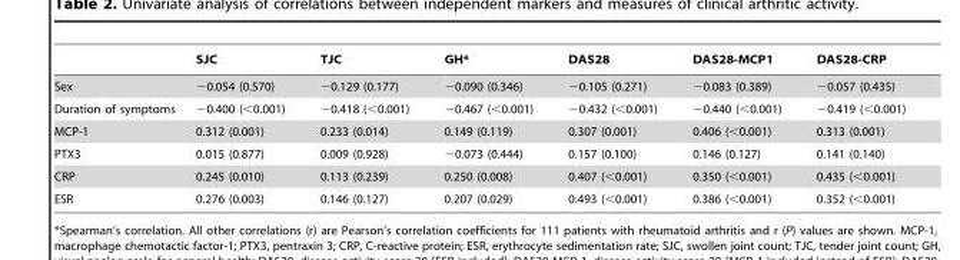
<table><thead><tr><td></td><td>SJC</td><td>TJC</td><td>GH*</td><td>DAS28</td><td>DAS28-MCP1</td><td>DAS28-CRP</td></tr></thead><tbody><tr><td>Sex</td><td>−0.054 (0.570)</td><td>−0.129 (0.177)</td><td>−0.090 (0.346)</td><td>−0.105 (0.271)</td><td>−0.083 (0.389)</td><td>−0.057 (0.435)</td></tr><tr><td>Duration of symptoms</td><td>−0.400 (&lt;0.001)</td><td>−0.418 (&lt;0.001)</td><td>−0.467 (&lt;0.001)</td><td>−0.432 (&lt;0.001)</td><td>−0.440 (&lt;0.001)</td><td>−0.419 (&lt;0.001)</td></tr><tr><td>MCP-1</td><td>0.312 (0.001)</td><td>0.233 (0.014)</td><td>0.149 (0.119)</td><td>0.307 (0.001)</td><td>0.406 (&lt;0.001)</td><td>0.313 (0.001)</td></tr><tr><td>PTX3</td><td>0.015 (0.877)</td><td>0.009 (0.928)</td><td>−0.073 (0.444)</td><td>0.157 (0.100)</td><td>0.146 (0.127)</td><td>0.141 (0.140)</td></tr><tr><td>CRP</td><td>0.245 (0.010)</td><td>0.113 (0.239)</td><td>0.250 (0.008)</td><td>0.407 (&lt;0.001)</td><td>0.350 (&lt;0.001)</td><td>0.435 (&lt;0.001)</td></tr><tr><td>ESR</td><td>0.276 (0.003)</td><td>0.146 (0.127)</td><td>0.207 (0.029)</td><td>0.493 (&lt;0.001)</td><td>0.386 (&lt;0.001)</td><td>0.352 (&lt;0.001)</td></tr></tbody></table>